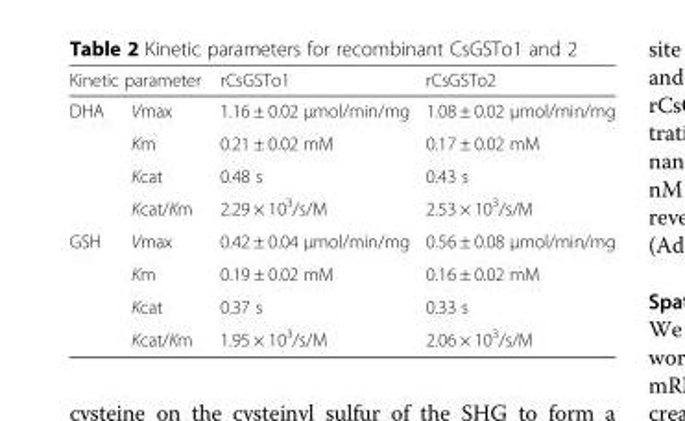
<table><thead><tr><td colspan="2">Kinetic parameter</td><td rowspan="2">rCsGSTo1 1.16 ± 0.02 μmol/min/mg</td><td rowspan="2">rCsGSTo2 1.08 ± 0.02 μmol/min/mg</td></tr><tr><td>DHA</td><td>Vmax</td></tr></thead><tbody><tr><td></td><td>Km</td><td>0.21 ± 0.02 mM</td><td>0.17 ± 0.02 mM</td></tr><tr><td></td><td>Kcat</td><td>0.48 s</td><td>0.43 s</td></tr><tr><td></td><td>Kcat/Km</td><td>2.29 × 10<sup>3</sup>/s/M</td><td>2.53 × 10<sup>3</sup>/s/M</td></tr><tr><td rowspan="4">GSH</td><td>Vmax</td><td>0.42 ± 0.04 μmol/min/mg</td><td>0.56 ± 0.08 μmol/min/mg</td></tr><tr><td>Km</td><td>0.19 ± 0.02 mM</td><td>0.16 ± 0.02 mM</td></tr><tr><td>Kcat</td><td>0.37 s</td><td>0.33 s</td></tr><tr><td>Kcat/Km</td><td>1.95 × 10<sup>3</sup>/s/M</td><td>2.06 × 10<sup>3</sup>/s/M</td></tr></tbody></table>